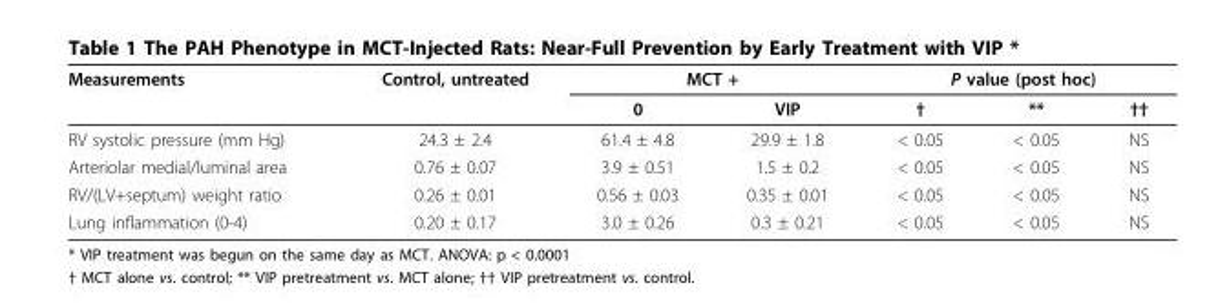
<table><thead><tr><td rowspan="2">Measurements</td><td rowspan="2">Control, untreated</td><td colspan="2">MCT +</td><td colspan="3">P value (post hoc)</td></tr><tr><td>0</td><td>VIP</td><td>†</td><td>**</td><td>††</td></tr></thead><tbody><tr><td>RV systolic pressure (mm Hg)</td><td>24.3 ± 2.4</td><td>61.4 ± 4.8</td><td>29.9 ± 1.8</td><td>&lt; 0.05</td><td>&lt; 0.05</td><td>NS</td></tr><tr><td>Arteriolar medial/luminal area</td><td>0.76 ± 0.07</td><td>3.9 ± 0.51</td><td>1.5 ± 0.2</td><td>&lt; 0.05</td><td>&lt; 0.05</td><td>NS</td></tr><tr><td>RV/(LV+septum) weight ratio</td><td>0.26 ± 0.01</td><td>0.56 ± 0.03</td><td>0.35 ± 0.01</td><td>&lt; 0.05</td><td>&lt; 0.05</td><td>NS</td></tr><tr><td>Lung inflammation (0-4)</td><td>0.20 ± 0.17</td><td>3.0 ± 0.26</td><td>0.3 ± 0.21</td><td>&lt; 0.05</td><td>&lt; 0.05</td><td>NS</td></tr></tbody></table>